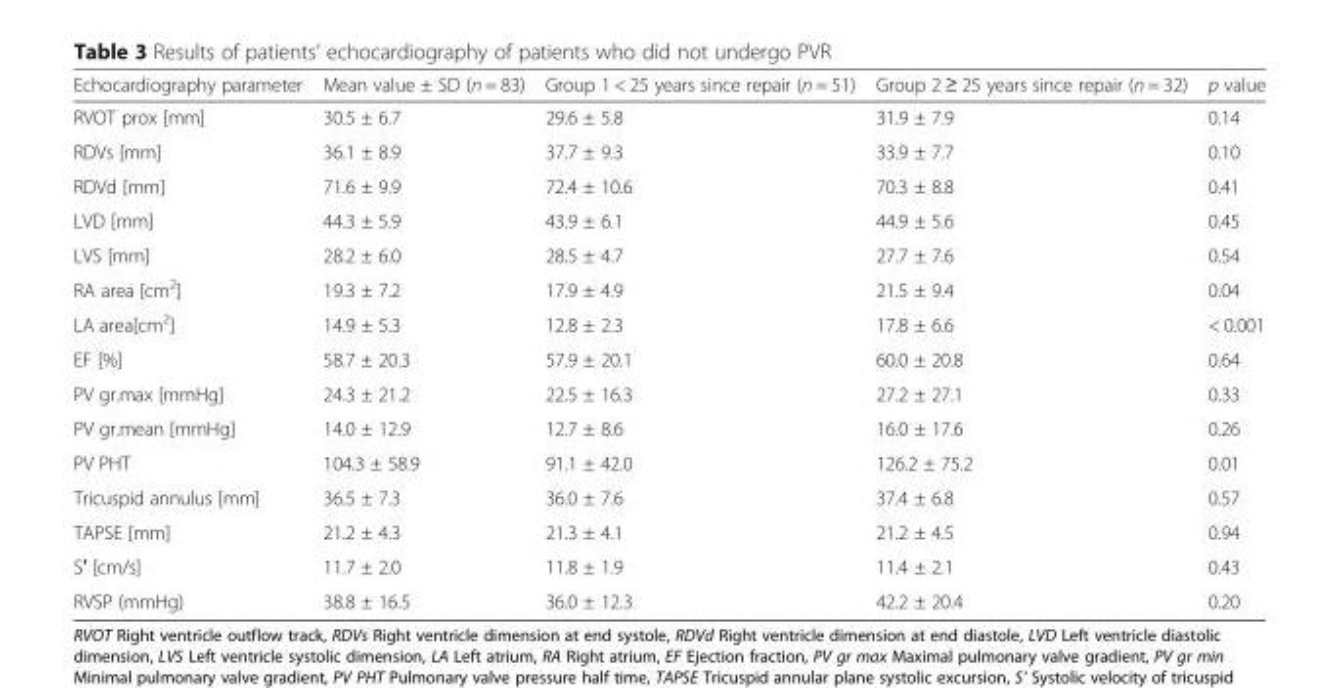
<table><thead><tr><td>Echocardiography parameter</td><td>Mean value ± SD (n = 83)</td><td>Group 1 &lt; 25 years since repair (n = 51)</td><td>Group 2 ≥ 25 years since repair (n = 32)</td><td>p value</td></tr></thead><tbody><tr><td>RVOT prox [mm]</td><td>30.5 ± 6.7</td><td>29.6 ± 5.8</td><td>31.9 ± 7.9</td><td>0.14</td></tr><tr><td>RDVs [mm]</td><td>36.1 ± 8.9</td><td>37.7 ± 9.3</td><td>33.9 ± 7.7</td><td>0.10</td></tr><tr><td>RDVd [mm]</td><td>71.6 ± 9.9</td><td>72.4 ± 10.6</td><td>70.3 ± 8.8</td><td>0.41</td></tr><tr><td>LVD [mm]</td><td>44.3 ± 5.9</td><td>43.9 ± 6.1</td><td>44.9 ± 5.6</td><td>0.45</td></tr><tr><td>LVS [mm]</td><td>28.2 ± 6.0</td><td>28.5 ± 4.7</td><td>27.7 ± 7.6</td><td>0.54</td></tr><tr><td>RA area [cm<sup>2</sup>]</td><td>19.3 ± 7.2</td><td>17.9 ± 4.9</td><td>21.5 ± 9.4</td><td>0.04</td></tr><tr><td>LA area[cm<sup>2</sup>]</td><td>14.9 ± 5.3</td><td>12.8 ± 2.3</td><td>17.8 ± 6.6</td><td>&lt; 0.001</td></tr><tr><td>EF [%]</td><td>58.7 ± 20.3</td><td>57.9 ± 20.1</td><td>60.0 ± 20.8</td><td>0.64</td></tr><tr><td>PV gr.max [mmHg]</td><td>24.3 ± 21.2</td><td>22.5 ± 16.3</td><td>27.2 ± 27.1</td><td>0.33</td></tr><tr><td>PV gr.mean [mmHg]</td><td>14.0 ± 12.9</td><td>12.7 ± 8.6</td><td>16.0 ± 17.6</td><td>0.26</td></tr><tr><td>PV PHT</td><td>104.3 ± 58.9</td><td>91.1 ± 42.0</td><td>126.2 ± 75.2</td><td>0.01</td></tr><tr><td>Tricuspid annulus [mm]</td><td>36.5 ± 7.3</td><td>36.0 ± 7.6</td><td>37.4 ± 6.8</td><td>0.57</td></tr><tr><td>TAPSE [mm]</td><td>21.2 ± 4.3</td><td>21.3 ± 4.1</td><td>21.2 ± 4.5</td><td>0.94</td></tr><tr><td>S′ [cm/s]</td><td>11.7 ± 2.0</td><td>11.8 ± 1.9</td><td>11.4 ± 2.1</td><td>0.43</td></tr><tr><td>RVSP (mmHg)</td><td>38.8 ± 16.5</td><td>36.0 ± 12.3</td><td>42.2 ± 20.4</td><td>0.20</td></tr></tbody></table>